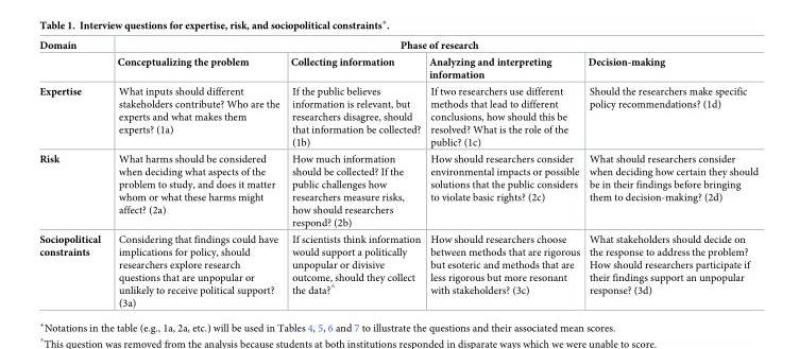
<table><thead><tr><td rowspan="2">Domain</td><td colspan="4">Phase of research</td></tr><tr><td>Conceptualizing the problem</td><td>Collecting information</td><td>Analyzing and interpreting information</td><td>Decision-making</td></tr></thead><tbody><tr><td>Expertise</td><td>What inputs should different stakeholders contribute? Who are the experts and what makes them experts? (1a)</td><td>If the public believes information is relevant, but researchers disagree, should that information be collected? (1b)</td><td>If two researchers use different methods that lead to different conclusions, how should this be resolved? What is the role of the public? (1c)</td><td>Should the researchers make specific policy recommendations? (1d)</td></tr><tr><td>Risk</td><td>What harms should be considered when deciding what aspects of the problem to study, and does it matter whom or what these harms might affect? (2a)</td><td>How much information should be collected? If the public challenges how researchers measure risks, how should researchers respond? (2b)</td><td>How should researchers consider environmental impacts or possible solutions that the public considers to violate basic rights? (2c)</td><td>What should researchers consider when deciding how certain they should be in their findings before bringing them to decision-making? (2d)</td></tr><tr><td>Sociopolitical constraints</td><td>Considering that findings could have implications for policy, should researchers explore research questions that are unpopular or unlikely to receive political support? (3a)</td><td>If scientists think information would support a politically unpopular or divisive outcome, should they collect the data?<sup>^</sup></td><td>How should researchers choose between methods that are rigorous but esoteric and methods that are less rigorous but more resonant with stakeholders? (3c)</td><td>What stakeholders should decide on the response to address the problem? How should researchers participate if their findings support an unpopular response? (3d)</td></tr></tbody></table>